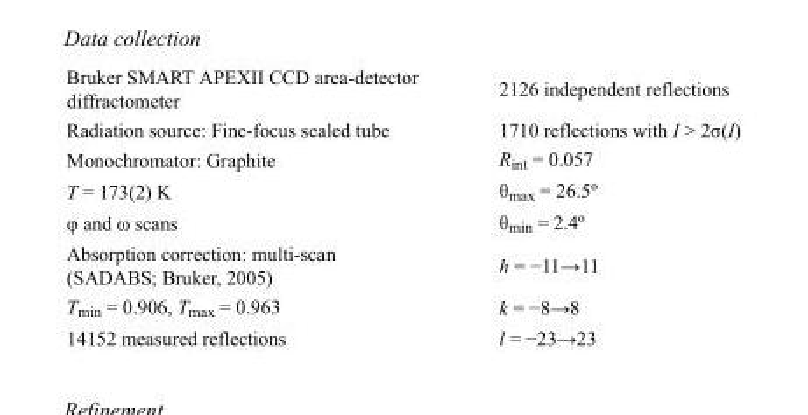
<table><tbody><tr><td>Bruker SMART APEXII CCD area-detector diffractometer</td><td>2126 independent reflections</td></tr><tr><td>Radiation source: Fine-focus sealed tube</td><td>1710 reflections with I &gt; 2σ(I)</td></tr><tr><td>Monochromator: Graphite</td><td>R<sub>int</sub> = 0.057</td></tr><tr><td>T = 173(2) K</td><td>θ<sub>max</sub> = 26.5º</td></tr><tr><td>φ and ω scans</td><td>θ<sub>min</sub> = 2.4º</td></tr><tr><td>Absorption correction: multi-scan (SADABS; Bruker, 2005)</td><td>h = −11→11</td></tr><tr><td>T<sub>min</sub> = 0.906, T<sub>max</sub> = 0.963</td><td>k = −8→8</td></tr><tr><td>14152 measured reflections</td><td>l = −23→23</td></tr></tbody></table>